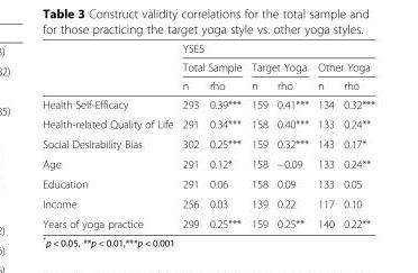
<table><thead><tr><td rowspan="3"></td><td colspan="6">YSES</td></tr><tr><td colspan="2">Total Sample</td><td colspan="2">Target Yoga</td><td colspan="2">Other Yoga</td></tr><tr><td>n</td><td>rho</td><td>n</td><td>rho</td><td>n</td><td>rho</td></tr></thead><tbody><tr><td>Health Self-Efficacy</td><td>293</td><td>0.39***</td><td>159</td><td>0.41***</td><td>134</td><td>0.32***</td></tr><tr><td>Health-related Quality of Life</td><td>291</td><td>0.34***</td><td>158</td><td>0.40***</td><td>133</td><td>0.24**</td></tr><tr><td>Social Desirability Bias</td><td>302</td><td>0.25***</td><td>159</td><td>0.32***</td><td>143</td><td>0.17*</td></tr><tr><td>Age</td><td>291</td><td>0.12*</td><td>158</td><td>−0.09</td><td>133</td><td>0.24**</td></tr><tr><td>Education</td><td>291</td><td>0.06</td><td>158</td><td>0.09</td><td>133</td><td>0.05</td></tr><tr><td>Income</td><td>256</td><td>0.03</td><td>139</td><td>0.22</td><td>117</td><td>0.10</td></tr><tr><td>Years of yoga practice</td><td>299</td><td>0.25***</td><td>159</td><td>0.25**</td><td>140</td><td>0.22**</td></tr></tbody></table>